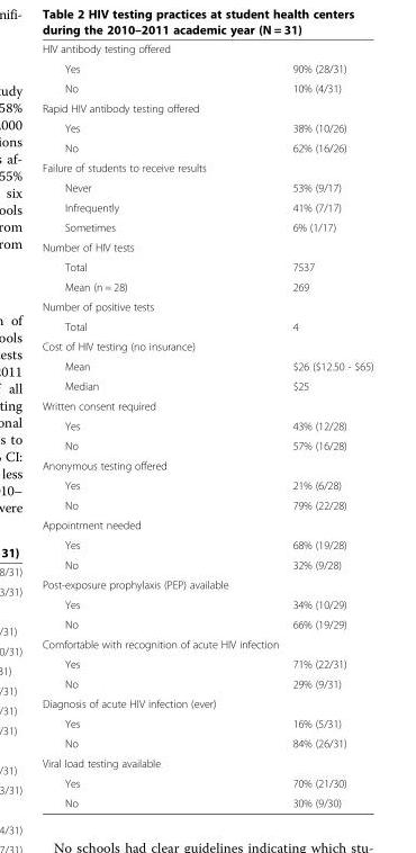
<table><tbody><tr><td colspan="2">HIV antibody testing offered</td></tr><tr><td>Yes</td><td>90% (28/31)</td></tr><tr><td>No</td><td>10% (4/31)</td></tr><tr><td colspan="2">Rapid HIV antibody testing offered</td></tr><tr><td>Yes</td><td>38% (10/26)</td></tr><tr><td>No</td><td>62% (16/26)</td></tr><tr><td colspan="2">Failure of students to receive results</td></tr><tr><td>Never</td><td>53% (9/17)</td></tr><tr><td>Infrequently</td><td>41% (7/17)</td></tr><tr><td>Sometimes</td><td>6% (1/17)</td></tr><tr><td colspan="2">Number of HIV tests</td></tr><tr><td>Total</td><td>7537</td></tr><tr><td>Mean (n = 28)</td><td>269</td></tr><tr><td colspan="2">Number of positive tests</td></tr><tr><td>Total</td><td>4</td></tr><tr><td colspan="2">Cost of HIV testing (no insurance)</td></tr><tr><td>Mean</td><td>$26 ($12.50 - $65)</td></tr><tr><td>Median</td><td>$25</td></tr><tr><td colspan="2">Written consent required</td></tr><tr><td>Yes</td><td>43% (12/28)</td></tr><tr><td>No</td><td>57% (16/28)</td></tr><tr><td colspan="2">Anonymous testing offered</td></tr><tr><td>Yes</td><td>21% (6/28)</td></tr><tr><td>No</td><td>79% (22/28)</td></tr><tr><td colspan="2">Appointment needed</td></tr><tr><td>Yes</td><td>68% (19/28)</td></tr><tr><td>No</td><td>32% (9/28)</td></tr><tr><td colspan="2">Post-exposure prophylaxis (PEP) available</td></tr><tr><td>Yes</td><td>34% (10/29)</td></tr><tr><td>No</td><td>66% (19/29)</td></tr><tr><td colspan="2">Comfortable with recognition of acute HIV infection</td></tr><tr><td>Yes</td><td>71% (22/31)</td></tr><tr><td>No</td><td>29% (9/31)</td></tr><tr><td colspan="2">Diagnosis of acute HIV infection (ever)</td></tr><tr><td>Yes</td><td>16% (5/31)</td></tr><tr><td>No</td><td>84% (26/31)</td></tr><tr><td colspan="2">Viral load testing available</td></tr><tr><td>Yes</td><td>70% (21/30)</td></tr><tr><td>No</td><td>30% (9/30)</td></tr></tbody></table>